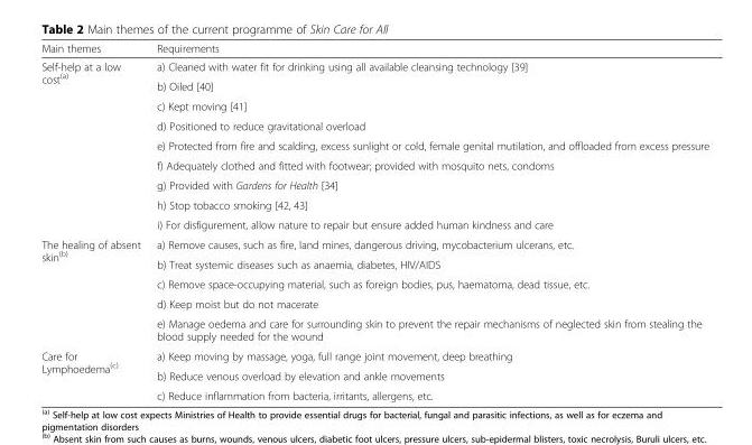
<table><thead><tr><td>Main themes</td><td>Requirements</td></tr></thead><tbody><tr><td rowspan="9">Self-help at a low cost<sup>(a)</sup></td><td>a) Cleaned with water fit for drinking using all available cleansing technology [39]</td></tr><tr><td>b) Oiled [40]</td></tr><tr><td>c) Kept moving [41]</td></tr><tr><td>d) Positioned to reduce gravitational overload</td></tr><tr><td>e) Protected from fire and scalding, excess sunlight or cold, female genital mutilation, and offloaded from excess pressure</td></tr><tr><td>f) Adequately clothed and fitted with footwear; provided with mosquito nets, condoms</td></tr><tr><td>g) Provided with Gardens for Health [34]</td></tr><tr><td>h) Stop tobacco smoking [42, 43]</td></tr><tr><td>i) For disfigurement, allow nature to repair but ensure added human kindness and care</td></tr><tr><td rowspan="5">The healing of absent skin<sup>(b)</sup></td><td>a) Remove causes, such as fire, land mines, dangerous driving, mycobacterium ulcerans, etc.</td></tr><tr><td>b) Treat systemic diseases such as anaemia, diabetes, HIV/AIDS</td></tr><tr><td>c) Remove space-occupying material, such as foreign bodies, pus, haematoma, dead tissue, etc.</td></tr><tr><td>d) Keep moist but do not macerate</td></tr><tr><td>e) Manage oedema and care for surrounding skin to prevent the repair mechanisms of neglected skin from stealing the blood supply needed for the wound</td></tr><tr><td rowspan="3">Care for Lymphoedema<sup>(c)</sup></td><td>a) Keep moving by massage, yoga, full range joint movement, deep breathing</td></tr><tr><td>b) Reduce venous overload by elevation and ankle movements</td></tr><tr><td>c) Reduce inflammation from bacteria, irritants, allergens, etc.</td></tr></tbody></table>